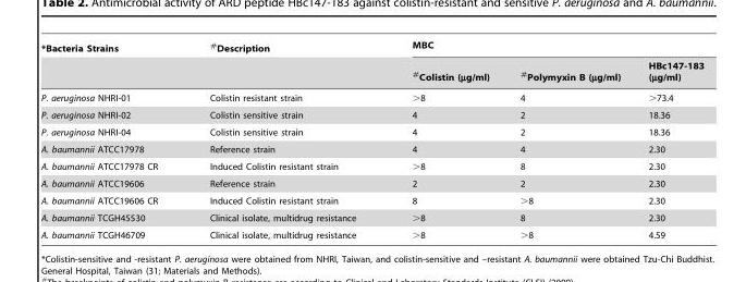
<table><thead><tr><td rowspan="2">*Bacteria Strains</td><td rowspan="2">#Description</td><td colspan="3">MBC</td></tr><tr><td>#Colistin (µg/ml)</td><td>#Polymyxin B (µg/ml)</td><td>HBc147-183 (µg/ml)</td></tr></thead><tbody><tr><td>P. aeruginosa NHRI-01</td><td>Colistin resistant strain</td><td>&gt;8</td><td>4</td><td>&gt;73.4</td></tr><tr><td>P. aeruginosa NHRI-02</td><td>Colistin sensitive strain</td><td>4</td><td>2</td><td>18.36</td></tr><tr><td>P. aeruginosa NHRI-04</td><td>Colistin sensitive strain</td><td>4</td><td>2</td><td>18.36</td></tr><tr><td>A. baumannii ATCC17978</td><td>Reference strain</td><td>4</td><td>4</td><td>2.30</td></tr><tr><td>A. baumannii ATCC17978 CR</td><td>Induced Colistin resistant strain</td><td>&gt;8</td><td>8</td><td>2.30</td></tr><tr><td>A. baumannii ATCC19606</td><td>Reference strain</td><td>2</td><td>2</td><td>2.30</td></tr><tr><td>A. baumannii ATCC19606 CR</td><td>Induced Colistin resistant strain</td><td>8</td><td>&gt;8</td><td>2.30</td></tr><tr><td>A. baumannii TCGH45530</td><td>Clinical isolate, multidrug resistance</td><td>&gt;8</td><td>8</td><td>2.30</td></tr><tr><td>A. baumannii TCGH46709</td><td>Clinical isolate, multidrug resistance</td><td>&gt;8</td><td>&gt;8</td><td>4.59</td></tr></tbody></table>